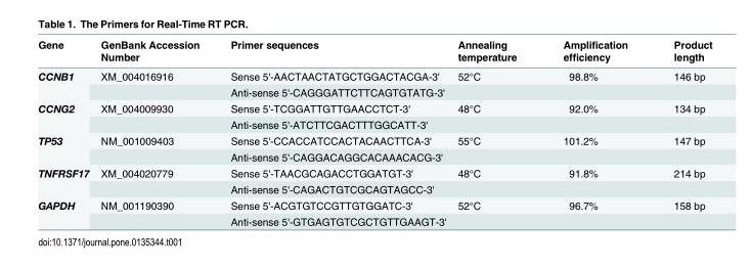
<table><thead><tr><td>Gene</td><td>GenBank Accession Number</td><td>Primer sequences</td><td>Annealing temperature</td><td>Amplification efficiency</td><td>Product length</td></tr></thead><tbody><tr><td rowspan="2">CCNB1</td><td>XM_004016916</td><td>Sense 5&#x27;-AACTAACTATGCTGGACTACGA-3&#x27;</td><td>52°C</td><td>98.8%</td><td>146 bp</td></tr><tr><td></td><td>Anti-sense 5&#x27;-CAGGGATTCTTCAGTGTATG-3&#x27;</td><td></td><td></td><td></td></tr><tr><td rowspan="2">CCNG2</td><td>XM_004009930</td><td>Sense 5&#x27;-TCGGATTGTTGAACCTCT-3&#x27;</td><td>48°C</td><td>92.0%</td><td>134 bp</td></tr><tr><td></td><td>Anti-sense 5&#x27;-ATCTTCGACTTTGGCATT-3&#x27;</td><td></td><td></td><td></td></tr><tr><td rowspan="2">TP53</td><td>NM_001009403</td><td>Sense 5&#x27;-CCACCATCCACTACAACTTCA-3&#x27;</td><td>55°C</td><td>101.2%</td><td>147 bp</td></tr><tr><td></td><td>Anti-sense 5&#x27;-CAGGACAGGCACAAACACG-3&#x27;</td><td></td><td></td><td></td></tr><tr><td rowspan="2">TNFRSF17</td><td>XM_004020779</td><td>Sense 5&#x27;-TAACGCAGACCTGGATGT-3&#x27;</td><td>48°C</td><td>91.8%</td><td>214 bp</td></tr><tr><td></td><td>Anti-sense 5&#x27;-CAGACTGTCGCAGTAGCC-3&#x27;</td><td></td><td></td><td></td></tr><tr><td rowspan="2">GAPDH</td><td>NM_001190390</td><td>Sense 5&#x27;-ACGTGTCCGTTGTGGATC-3&#x27;</td><td>52°C</td><td>96.7%</td><td>158 bp</td></tr><tr><td></td><td>Anti-sense 5&#x27;-GTGAGTGTCGCTGTTGAAGT-3&#x27;</td><td></td><td></td><td></td></tr></tbody></table>